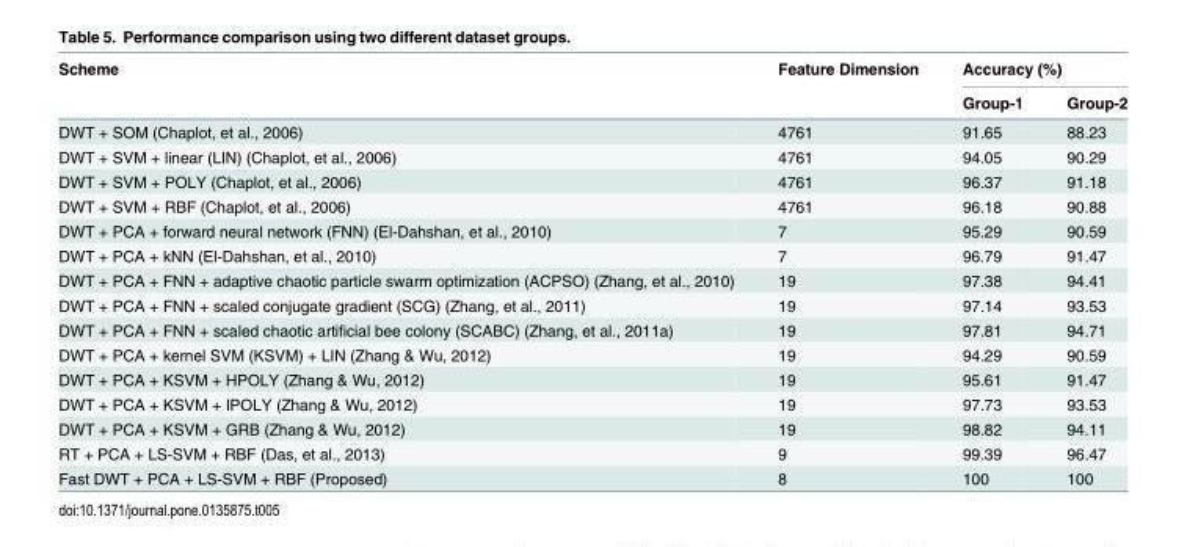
<table><thead><tr><td rowspan="2">Scheme</td><td rowspan="2">Feature Dimension</td><td colspan="2">Accuracy (%)</td></tr><tr><td>Group-1</td><td>Group-2</td></tr></thead><tbody><tr><td>DWT + SOM (Chaplot, et al., 2006)</td><td>4761</td><td>91.65</td><td>88.23</td></tr><tr><td>DWT + SVM + linear (LIN) (Chaplot, et al., 2006)</td><td>4761</td><td>94.05</td><td>90.29</td></tr><tr><td>DWT + SVM + POLY (Chaplot, et al., 2006)</td><td>4761</td><td>96.37</td><td>91.18</td></tr><tr><td>DWT + SVM + RBF (Chaplot, et al., 2006)</td><td>4761</td><td>96.18</td><td>90.88</td></tr><tr><td>DWT + PCA + forward neural network (FNN) (El-Dahshan, et al., 2010)</td><td>7</td><td>95.29</td><td>90.59</td></tr><tr><td>DWT + PCA + kNN (El-Dahshan, et al., 2010)</td><td>7</td><td>96.79</td><td>91.47</td></tr><tr><td>DWT + PCA + FNN + adaptive chaotic particle swarm optimization (ACPSO) (Zhang, et al., 2010)</td><td>19</td><td>97.38</td><td>94.41</td></tr><tr><td>DWT + PCA + FNN + scaled conjugate gradient (SCG) (Zhang, et al., 2011)</td><td>19</td><td>97.14</td><td>93.53</td></tr><tr><td>DWT + PCA + FNN + scaled chaotic artificial bee colony (SCABC) (Zhang, et al., 2011a)</td><td>19</td><td>97.81</td><td>94.71</td></tr><tr><td>DWT + PCA + kernel SVM (KSVM) + LIN (Zhang &amp; Wu, 2012)</td><td>19</td><td>94.29</td><td>90.59</td></tr><tr><td>DWT + PCA + KSVM + HPOLY (Zhang &amp; Wu, 2012)</td><td>19</td><td>95.61</td><td>91.47</td></tr><tr><td>DWT + PCA + KSVM + IPOLY (Zhang &amp; Wu, 2012)</td><td>19</td><td>97.73</td><td>93.53</td></tr><tr><td>DWT + PCA + KSVM + GRB (Zhang &amp; Wu, 2012)</td><td>19</td><td>98.82</td><td>94.11</td></tr><tr><td>RT + PCA + LS-SVM + RBF (Das, et al., 2013)</td><td>9</td><td>99.39</td><td>96.47</td></tr><tr><td>Fast DWT + PCA + LS-SVM + RBF (Proposed)</td><td>8</td><td>100</td><td>100</td></tr></tbody></table>